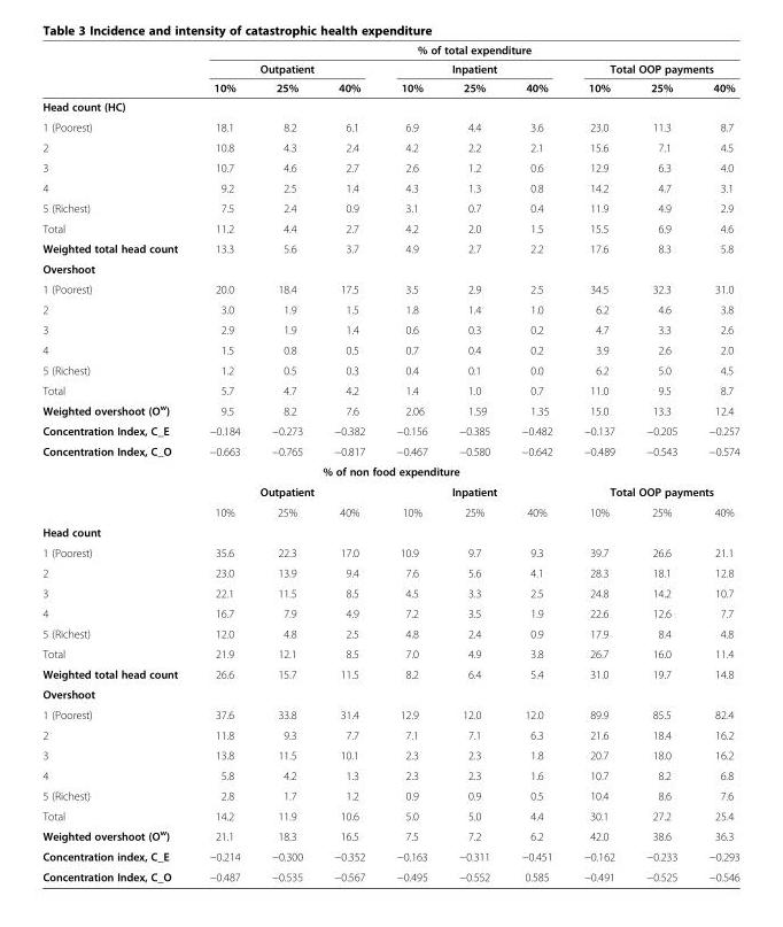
<table><thead><tr><td rowspan="3"></td><td colspan="9">% of total expenditure</td></tr><tr><td colspan="3">Outpatient</td><td colspan="3">Inpatient</td><td colspan="3">Total OOP payments</td></tr><tr><td>10%</td><td>25%</td><td>40%</td><td>10%</td><td>25%</td><td>40%</td><td>10%</td><td>25%</td><td>40%</td></tr></thead><tbody><tr><td colspan="10">Head count (HC)</td></tr><tr><td>1 (Poorest)</td><td>18.1</td><td>8.2</td><td>6.1</td><td>6.9</td><td>4.4</td><td>3.6</td><td>23.0</td><td>11.3</td><td>8.7</td></tr><tr><td>2</td><td>10.8</td><td>4.3</td><td>2.4</td><td>4.2</td><td>2.2</td><td>2.1</td><td>15.6</td><td>7.1</td><td>4.5</td></tr><tr><td>3</td><td>10.7</td><td>4.6</td><td>2.7</td><td>2.6</td><td>1.2</td><td>0.6</td><td>12.9</td><td>6.3</td><td>4.0</td></tr><tr><td>4</td><td>9.2</td><td>2.5</td><td>1.4</td><td>4.3</td><td>1.3</td><td>0.8</td><td>14.2</td><td>4.7</td><td>3.1</td></tr><tr><td>5 (Richest)</td><td>7.5</td><td>2.4</td><td>0.9</td><td>3.1</td><td>0.7</td><td>0.4</td><td>11.9</td><td>4.9</td><td>2.9</td></tr><tr><td>Total</td><td>11.2</td><td>4.4</td><td>2.7</td><td>4.2</td><td>2.0</td><td>1.5</td><td>15.5</td><td>6.9</td><td>4.6</td></tr><tr><td>Weighted total head count</td><td>13.3</td><td>5.6</td><td>3.7</td><td>4.9</td><td>2.7</td><td>2.2</td><td>17.6</td><td>8.3</td><td>5.8</td></tr><tr><td colspan="10">Overshoot</td></tr><tr><td>1 (Poorest)</td><td>20.0</td><td>18.4</td><td>17.5</td><td>3.5</td><td>2.9</td><td>2.5</td><td>34.5</td><td>32.3</td><td>31.0</td></tr><tr><td>2</td><td>3.0</td><td>1.9</td><td>1.5</td><td>1.8</td><td>1.4</td><td>1.0</td><td>6.2</td><td>4.6</td><td>3.8</td></tr><tr><td>3</td><td>2.9</td><td>1.9</td><td>1.4</td><td>0.6</td><td>0.3</td><td>0.2</td><td>4.7</td><td>3.3</td><td>2.6</td></tr><tr><td>4</td><td>1.5</td><td>0.8</td><td>0.5</td><td>0.7</td><td>0.4</td><td>0.2</td><td>3.9</td><td>2.6</td><td>2.0</td></tr><tr><td>5 (Richest)</td><td>1.2</td><td>0.5</td><td>0.3</td><td>0.4</td><td>0.1</td><td>0.0</td><td>6.2</td><td>5.0</td><td>4.5</td></tr><tr><td>Total</td><td>5.7</td><td>4.7</td><td>4.2</td><td>1.4</td><td>1.0</td><td>0.7</td><td>11.0</td><td>9.5</td><td>8.7</td></tr><tr><td>Weighted overshoot (O<sup>w</sup>)</td><td>9.5</td><td>8.2</td><td>7.6</td><td>2.06</td><td>1.59</td><td>1.35</td><td>15.0</td><td>13.3</td><td>12.4</td></tr><tr><td>Concentration Index, C_E</td><td>−0.184</td><td>−0.273</td><td>−0.382</td><td>−0.156</td><td>−0.385</td><td>−0.482</td><td>−0.137</td><td>−0.205</td><td>−0.257</td></tr><tr><td>Concentration Index, C_O</td><td>−0.663</td><td>−0.765</td><td>−0.817</td><td>−0.467</td><td>−0.580</td><td>−0.642</td><td>−0.489</td><td>−0.543</td><td>−0.574</td></tr><tr><td colspan="10">% of non food expenditure</td></tr><tr><td rowspan="2"></td><td colspan="3">Outpatient</td><td colspan="3">Inpatient</td><td colspan="3">Total OOP payments</td></tr><tr><td>10%</td><td>25%</td><td>40%</td><td>10%</td><td>25%</td><td>40%</td><td>10%</td><td>25%</td><td>40%</td></tr><tr><td colspan="10">Head count</td></tr><tr><td>1 (Poorest)</td><td>35.6</td><td>22.3</td><td>17.0</td><td>10.9</td><td>9.7</td><td>9.3</td><td>39.7</td><td>26.6</td><td>21.1</td></tr><tr><td>2</td><td>23.0</td><td>13.9</td><td>9.4</td><td>7.6</td><td>5.6</td><td>4.1</td><td>28.3</td><td>18.1</td><td>12.8</td></tr><tr><td>3</td><td>22.1</td><td>11.5</td><td>8.5</td><td>4.5</td><td>3.3</td><td>2.5</td><td>24.8</td><td>14.2</td><td>10.7</td></tr><tr><td>4</td><td>16.7</td><td>7.9</td><td>4.9</td><td>7.2</td><td>3.5</td><td>1.9</td><td>22.6</td><td>12.6</td><td>7.7</td></tr><tr><td>5 (Richest)</td><td>12.0</td><td>4.8</td><td>2.5</td><td>4.8</td><td>2.4</td><td>0.9</td><td>17.9</td><td>8.4</td><td>4.8</td></tr><tr><td>Total</td><td>21.9</td><td>12.1</td><td>8.5</td><td>7.0</td><td>4.9</td><td>3.8</td><td>26.7</td><td>16.0</td><td>11.4</td></tr><tr><td>Weighted total head count</td><td>26.6</td><td>15.7</td><td>11.5</td><td>8.2</td><td>6.4</td><td>5.4</td><td>31.0</td><td>19.7</td><td>14.8</td></tr><tr><td colspan="10">Overshoot</td></tr><tr><td>1 (Poorest)</td><td>37.6</td><td>33.8</td><td>31.4</td><td>12.9</td><td>12.0</td><td>12.0</td><td>89.9</td><td>85.5</td><td>82.4</td></tr><tr><td>2</td><td>11.8</td><td>9.3</td><td>7.7</td><td>7.1</td><td>7.1</td><td>6.3</td><td>21.6</td><td>18.4</td><td>16.2</td></tr><tr><td>3</td><td>13.8</td><td>11.5</td><td>10.1</td><td>2.3</td><td>2.3</td><td>1.8</td><td>20.7</td><td>18.0</td><td>16.2</td></tr><tr><td>4</td><td>5.8</td><td>4.2</td><td>1.3</td><td>2.3</td><td>2.3</td><td>1.6</td><td>10.7</td><td>8.2</td><td>6.8</td></tr><tr><td>5 (Richest)</td><td>2.8</td><td>1.7</td><td>1.2</td><td>0.9</td><td>0.9</td><td>0.5</td><td>10.4</td><td>8.6</td><td>7.6</td></tr><tr><td>Total</td><td>14.2</td><td>11.9</td><td>10.6</td><td>5.0</td><td>5.0</td><td>4.4</td><td>30.1</td><td>27.2</td><td>25.4</td></tr><tr><td>Weighted overshoot (O<sup>w</sup>)</td><td>21.1</td><td>18.3</td><td>16.5</td><td>7.5</td><td>7.2</td><td>6.2</td><td>42.0</td><td>38.6</td><td>36.3</td></tr><tr><td>Concentration index, C_E</td><td>−0.214</td><td>−0.300</td><td>−0.352</td><td>−0.163</td><td>−0.311</td><td>−0.451</td><td>−0.162</td><td>−0.233</td><td>−0.293</td></tr><tr><td>Concentration Index, C_O</td><td>−0.487</td><td>−0.535</td><td>−0.567</td><td>−0.495</td><td>−0.552</td><td>0.585</td><td>−0.491</td><td>−0.525</td><td>−0.546</td></tr></tbody></table>